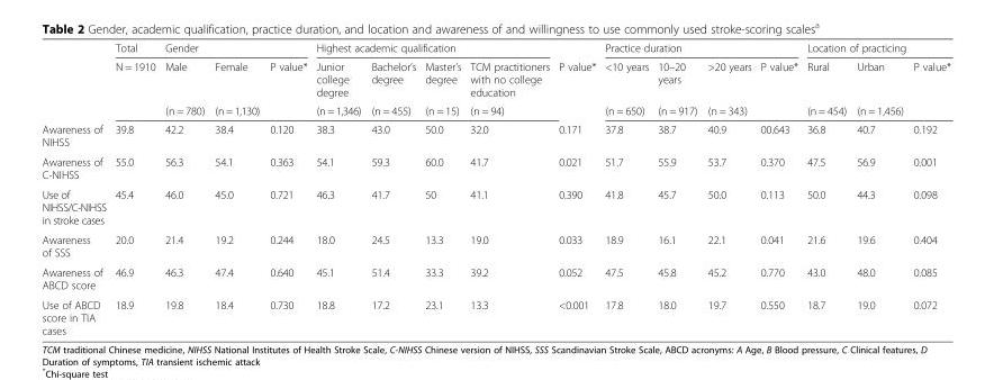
<table><thead><tr><td rowspan="3"></td><td rowspan="3">Total N = 1910</td><td colspan="3">Gender</td><td colspan="4">Highest academic qualification</td><td rowspan="3">P value*</td><td colspan="4">Practice duration</td><td colspan="3">Location of practicing</td></tr><tr><td rowspan="2">Male (n = 780)</td><td rowspan="2">Female (n = 1,130)</td><td rowspan="2">P value*</td><td rowspan="2">Junior college degree (n = 1,346)</td><td rowspan="2">Bachelor’s degree (n = 455)</td><td rowspan="2">Master’s degree (n = 15)</td><td rowspan="2">TCM practitioners with no college education (n = 94)</td><td rowspan="2">&lt;10 years (n = 650)</td><td rowspan="2">10–20 years (n = 917)</td><td rowspan="2">&gt;20 years (n = 343)</td><td rowspan="2">P value*</td><td rowspan="2">Rural (n = 454)</td><td rowspan="2">Urban (n = 1,456)</td><td rowspan="2">P value*</td></tr><tr></tr></thead><tbody><tr><td>Awareness of NIHSS</td><td>39.8</td><td>42.2</td><td>38.4</td><td>0.120</td><td>38.3</td><td>43.0</td><td>50.0</td><td>32.0</td><td>0.171</td><td>37.8</td><td>38.7</td><td>40.9</td><td>00.643</td><td>36.8</td><td>40.7</td><td>0.192</td></tr><tr><td>Awareness of C-NIHSS</td><td>55.0</td><td>56.3</td><td>54.1</td><td>0.363</td><td>54.1</td><td>59.3</td><td>60.0</td><td>41.7</td><td>0.021</td><td>51.7</td><td>55.9</td><td>53.7</td><td>0.370</td><td>47.5</td><td>56.9</td><td>0.001</td></tr><tr><td>Use of NIHSS/C-NIHSS in stroke cases</td><td>45.4</td><td>46.0</td><td>45.0</td><td>0.721</td><td>46.3</td><td>41.7</td><td>50</td><td>41.1</td><td>0.390</td><td>41.8</td><td>45.7</td><td>50.0</td><td>0.113</td><td>50.0</td><td>44.3</td><td>0.098</td></tr><tr><td>Awareness of SSS</td><td>20.0</td><td>21.4</td><td>19.2</td><td>0.244</td><td>18.0</td><td>24.5</td><td>13.3</td><td>19.0</td><td>0.033</td><td>18.9</td><td>16.1</td><td>22.1</td><td>0.041</td><td>21.6</td><td>19.6</td><td>0.404</td></tr><tr><td>Awareness of ABCD score</td><td>46.9</td><td>46.3</td><td>47.4</td><td>0.640</td><td>45.1</td><td>51.4</td><td>33.3</td><td>39.2</td><td>0.052</td><td>47.5</td><td>45.8</td><td>45.2</td><td>0.770</td><td>43.0</td><td>48.0</td><td>0.085</td></tr><tr><td>Use of ABCD score in TIA cases</td><td>18.9</td><td>19.8</td><td>18.4</td><td>0.730</td><td>18.8</td><td>17.2</td><td>23.1</td><td>13.3</td><td>&lt;0.001</td><td>17.8</td><td>18.0</td><td>19.7</td><td>0.550</td><td>18.7</td><td>19.0</td><td>0.072</td></tr></tbody></table>